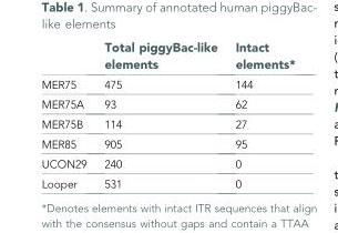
<table><thead><tr><td></td><td>Total piggyBac-like elements</td><td>Intact elements*</td></tr></thead><tbody><tr><td>MER75</td><td>475</td><td>144</td></tr><tr><td>MER75A</td><td>93</td><td>62</td></tr><tr><td>MER75B</td><td>114</td><td>27</td></tr><tr><td>MER85</td><td>905</td><td>95</td></tr><tr><td>UCON29</td><td>240</td><td>0</td></tr><tr><td>Looper</td><td>531</td><td>0</td></tr></tbody></table>